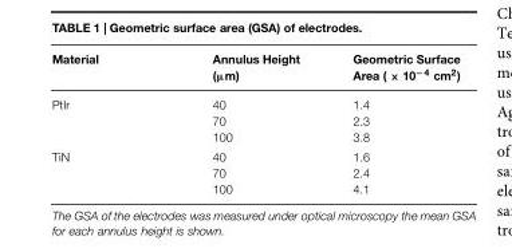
<table><thead><tr><td>Material</td><td>Annulus Height (µm)</td><td>Geometric Surface Area ( × 10<sup>−4</sup> cm<sup>2</sup>)</td></tr></thead><tbody><tr><td>PtIr</td><td>40 70 100</td><td>1.4 2.3 3.8</td></tr><tr><td>TiN</td><td>40 70 100</td><td>1.6 2.4 4.1</td></tr></tbody></table>